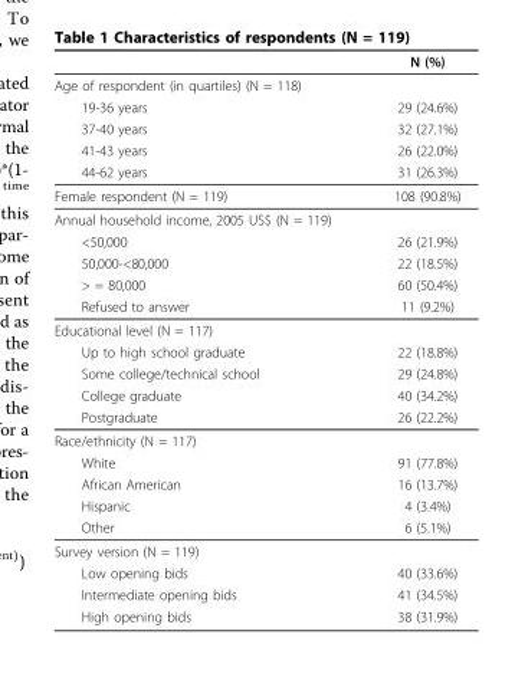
<table><thead><tr><td></td><td>N (%)</td></tr></thead><tbody><tr><td colspan="2">Age of respondent (in quartiles) (N = 118)</td></tr><tr><td>19-36 years</td><td>29 (24.6%)</td></tr><tr><td>37-40 years</td><td>32 (27.1%)</td></tr><tr><td>41-43 years</td><td>26 (22.0%)</td></tr><tr><td>44-62 years</td><td>31 (26.3%)</td></tr><tr><td>Female respondent (N = 119)</td><td>108 (90.8%)</td></tr><tr><td colspan="2">Annual household income, 2005 US$ (N = 119)</td></tr><tr><td>&lt;50,000</td><td>26 (21.9%)</td></tr><tr><td>50,000-&lt;80,000</td><td>22 (18.5%)</td></tr><tr><td>&gt; = 80,000</td><td>60 (50.4%)</td></tr><tr><td>Refused to answer</td><td>11 (9.2%)</td></tr><tr><td colspan="2">Educational level (N = 117)</td></tr><tr><td>Up to high school graduate</td><td>22 (18.8%)</td></tr><tr><td>Some college/technical school</td><td>29 (24.8%)</td></tr><tr><td>College graduate</td><td>40 (34.2%)</td></tr><tr><td>Postgraduate</td><td>26 (22.2%)</td></tr><tr><td colspan="2">Race/ethnicity (N = 117)</td></tr><tr><td>White</td><td>91 (77.8%)</td></tr><tr><td>African American</td><td>16 (13.7%)</td></tr><tr><td>Hispanic</td><td>4 (3.4%)</td></tr><tr><td>Other</td><td>6 (5.1%)</td></tr><tr><td colspan="2">Survey version (N = 119)</td></tr><tr><td>Low opening bids</td><td>40 (33.6%)</td></tr><tr><td>Intermediate opening bids</td><td>41 (34.5%)</td></tr><tr><td>High opening bids</td><td>38 (31.9%)</td></tr></tbody></table>